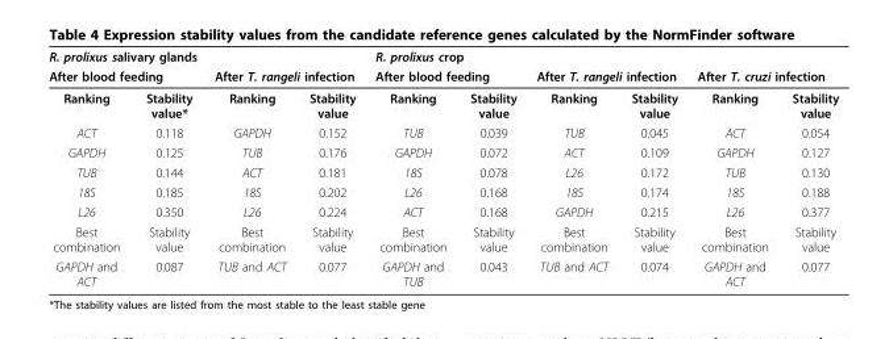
<table><thead><tr><td colspan="4">R. prolixus salivary glands</td><td colspan="6">R. prolixus crop</td></tr><tr><td colspan="2">After blood feeding</td><td colspan="2">After T. rangeli infection</td><td colspan="2">After blood feeding</td><td colspan="2">After T. rangeli infection</td><td colspan="2">After T. cruzi infection</td></tr><tr><td>Ranking</td><td>Stability value*</td><td>Ranking</td><td>Stability value</td><td>Ranking</td><td>Stability value</td><td>Ranking</td><td>Stability value</td><td>Ranking</td><td>Stability value</td></tr></thead><tbody><tr><td>ACT</td><td>0.118</td><td>GAPDH</td><td>0.152</td><td>TUB</td><td>0.039</td><td>TUB</td><td>0.045</td><td>ACT</td><td>0.054</td></tr><tr><td>GAPDH</td><td>0.125</td><td>TUB</td><td>0.176</td><td>GAPDH</td><td>0.072</td><td>ACT</td><td>0.109</td><td>GAPDH</td><td>0.127</td></tr><tr><td>TUB</td><td>0.144</td><td>ACT</td><td>0.181</td><td>18S</td><td>0.078</td><td>L26</td><td>0.172</td><td>TUB</td><td>0.130</td></tr><tr><td>18S</td><td>0.185</td><td>18S</td><td>0.202</td><td>L26</td><td>0.168</td><td>18S</td><td>0.174</td><td>18S</td><td>0.188</td></tr><tr><td>L26</td><td>0.350</td><td>L26</td><td>0.224</td><td>ACT</td><td>0.168</td><td>GAPDH</td><td>0.215</td><td>L26</td><td>0.377</td></tr><tr><td>Best combination</td><td>Stability value</td><td>Best combination</td><td>Stability value</td><td>Best combination</td><td>Stability value</td><td>Best combination</td><td>Stability value</td><td>Best combination</td><td>Stability value</td></tr><tr><td>GAPDH and ACT</td><td>0.087</td><td>TUB and ACT</td><td>0.077</td><td>GAPDH and TUB</td><td>0.043</td><td>TUB and ACT</td><td>0.074</td><td>GAPDH and ACT</td><td>0.077</td></tr></tbody></table>